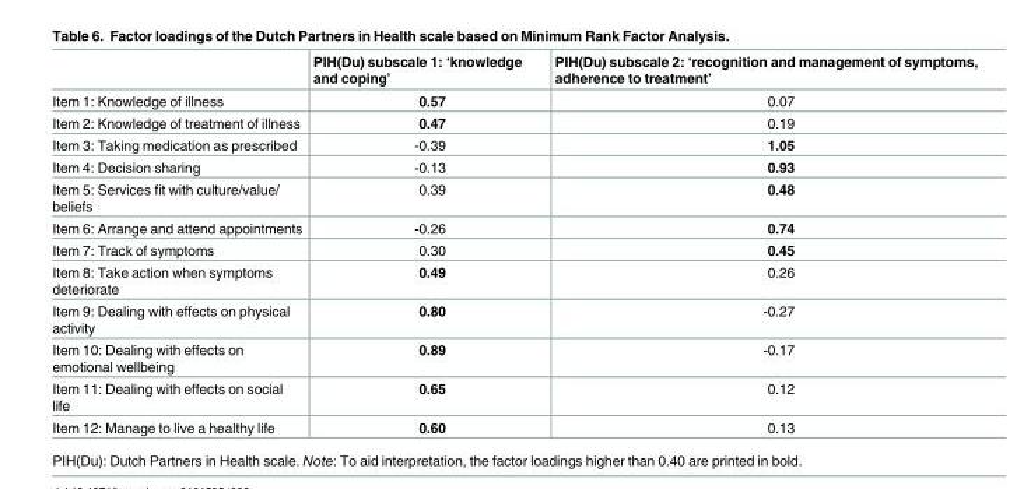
<table><thead><tr><td></td><td>PIH(Du) subscale 1: ‘knowledge and coping’</td><td>PIH(Du) subscale 2: ‘recognition and management of symptoms, adherence to treatment’</td></tr></thead><tbody><tr><td>Item 1: Knowledge of illness</td><td>0.57</td><td>0.07</td></tr><tr><td>Item 2: Knowledge of treatment of illness</td><td>0.47</td><td>0.19</td></tr><tr><td>Item 3: Taking medication as prescribed</td><td>-0.39</td><td>1.05</td></tr><tr><td>Item 4: Decision sharing</td><td>-0.13</td><td>0.93</td></tr><tr><td>Item 5: Services fit with culture/value/ beliefs</td><td>0.39</td><td>0.48</td></tr><tr><td>Item 6: Arrange and attend appointments</td><td>-0.26</td><td>0.74</td></tr><tr><td>Item 7: Track of symptoms</td><td>0.30</td><td>0.45</td></tr><tr><td>Item 8: Take action when symptoms deteriorate</td><td>0.49</td><td>0.26</td></tr><tr><td>Item 9: Dealing with effects on physical activity</td><td>0.80</td><td>-0.27</td></tr><tr><td>Item 10: Dealing with effects on emotional wellbeing</td><td>0.89</td><td>-0.17</td></tr><tr><td>Item 11: Dealing with effects on social life</td><td>0.65</td><td>0.12</td></tr><tr><td>Item 12: Manage to live a healthy life</td><td>0.60</td><td>0.13</td></tr></tbody></table>